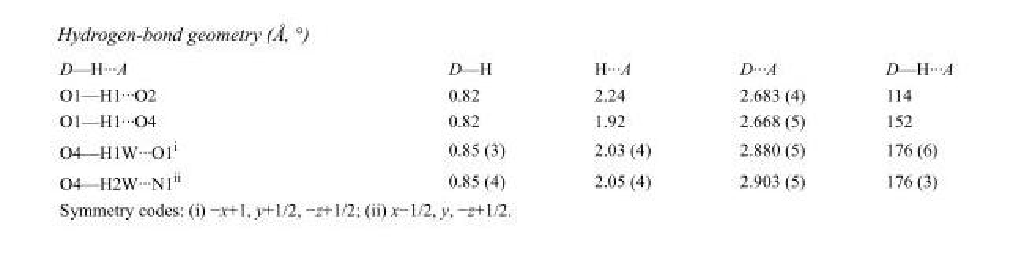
<table><tbody><tr><td>D—H···A</td><td>D—H</td><td>H···A</td><td>D···A</td><td>D—H···A</td></tr><tr><td>O1—H1···O2</td><td>0.82</td><td>2.24</td><td>2.683 (4)</td><td>114</td></tr><tr><td>O1—H1···O4</td><td>0.82</td><td>1.92</td><td>2.668 (5)</td><td>152</td></tr><tr><td>O4—H1W···O1<sup>i</sup></td><td>0.85 (3)</td><td>2.03 (4)</td><td>2.880 (5)</td><td>176 (6)</td></tr><tr><td>O4—H2W···N1<sup>ii</sup></td><td>0.85 (4)</td><td>2.05 (4)</td><td>2.903 (5)</td><td>176 (3)</td></tr></tbody></table>